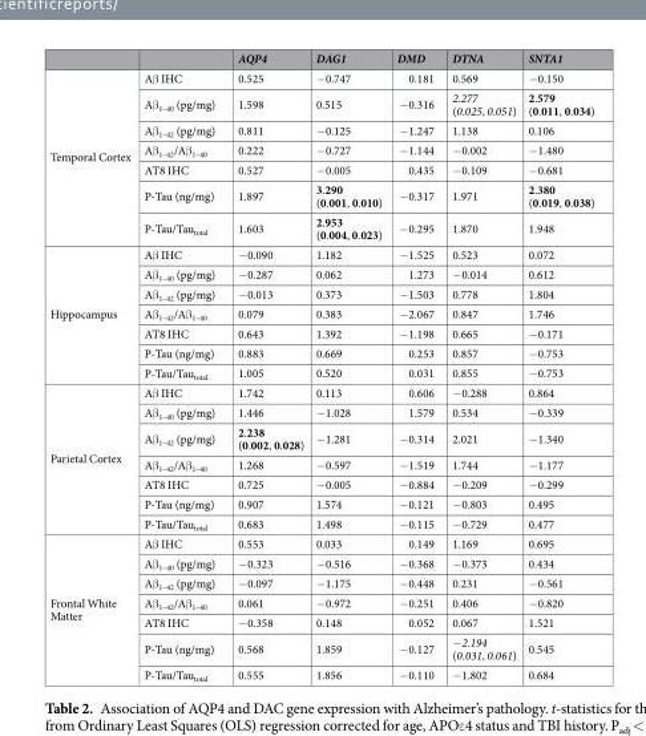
<table><thead><tr><td></td><td></td><td>AQP4</td><td>DAG1</td><td>DMD</td><td>DTNA</td><td>SNTA1</td></tr></thead><tbody><tr><td rowspan="7">Temporal Cortex</td><td>Aβ IHC</td><td>0.525</td><td>−0.747</td><td>0.181</td><td>0.569</td><td>−0.150</td></tr><tr><td>Aβ<sub>1–40</sub> (pg/mg)</td><td>1.598</td><td>0.515</td><td>−0.316</td><td>2.277 (0.025, 0.051)</td><td>2.579 (0.011, 0.034)</td></tr><tr><td>Aβ<sub>1–42</sub> (pg/mg)</td><td>0.811</td><td>−0.125</td><td>−1.247</td><td>1.138</td><td>0.106</td></tr><tr><td>Aβ<sub>1–42</sub>/Aβ<sub>1–40</sub></td><td>0.222</td><td>−0.727</td><td>−1.144</td><td>−0.002</td><td>−1.480</td></tr><tr><td>AT8 IHC</td><td>0.527</td><td>−0.005</td><td>0.435</td><td>−0.109</td><td>−0.681</td></tr><tr><td>P-Tau (ng/mg)</td><td>1.897</td><td>3.290 (0.001, 0.010)</td><td>−0.317</td><td>1.971</td><td>2.380 (0.019, 0.038)</td></tr><tr><td>P-Tau/Tau<sub>total</sub></td><td>1.603</td><td>2.953 (0.004, 0.023)</td><td>−0.295</td><td>1.870</td><td>1.948</td></tr><tr><td rowspan="7">Hippocampus</td><td>Aβ IHC</td><td>−0.090</td><td>1.182</td><td>−1.525</td><td>0.523</td><td>0.072</td></tr><tr><td>Aβ<sub>1–40</sub> (pg/mg)</td><td>−0.287</td><td>0.062</td><td>1.273</td><td>−0.014</td><td>0.612</td></tr><tr><td>Aβ<sub>1–42</sub> (pg/mg)</td><td>−0.013</td><td>0.373</td><td>−1.503</td><td>0.778</td><td>1.804</td></tr><tr><td>Aβ<sub>1–42</sub>/Aβ<sub>1–40</sub></td><td>0.079</td><td>0.383</td><td>−2.067</td><td>0.847</td><td>1.746</td></tr><tr><td>AT8 IHC</td><td>0.643</td><td>1.392</td><td>−1.198</td><td>0.665</td><td>−0.171</td></tr><tr><td>P-Tau (ng/mg)</td><td>0.883</td><td>0.669</td><td>0.253</td><td>0.857</td><td>−0.753</td></tr><tr><td>P-Tau/Tau<sub>total</sub></td><td>1.005</td><td>0.520</td><td>0.031</td><td>0.855</td><td>−0.753</td></tr><tr><td rowspan="7">Parietal Cortex</td><td>Aβ IHC</td><td>1.742</td><td>0.113</td><td>0.606</td><td>−0.288</td><td>0.864</td></tr><tr><td>Aβ<sub>1–40</sub> (pg/mg)</td><td>1.446</td><td>−1.028</td><td>1.579</td><td>0.534</td><td>−0.339</td></tr><tr><td>Aβ<sub>1–42</sub> (pg/mg)</td><td>2.238 (0.002, 0.028)</td><td>−1.281</td><td>−0.314</td><td>2.021</td><td>−1.340</td></tr><tr><td>Aβ<sub>1–42</sub>/Aβ<sub>1–40</sub></td><td>1.268</td><td>−0.597</td><td>−1.519</td><td>1.744</td><td>−1.177</td></tr><tr><td>AT8 IHC</td><td>0.725</td><td>−0.005</td><td>−0.884</td><td>−0.209</td><td>−0.299</td></tr><tr><td>P-Tau (ng/mg)</td><td>0.907</td><td>1.574</td><td>−0.121</td><td>−0.803</td><td>0.495</td></tr><tr><td>P-Tau/Tau<sub>total</sub></td><td>0.683</td><td>1.498</td><td>−0.115</td><td>−0.729</td><td>0.477</td></tr><tr><td rowspan="7">Frontal White Matter</td><td>Aβ IHC</td><td>0.553</td><td>0.033</td><td>0.149</td><td>1.169</td><td>0.695</td></tr><tr><td>Aβ<sub>1–40</sub> (pg/mg)</td><td>−0.323</td><td>−0.516</td><td>−0.368</td><td>−0.373</td><td>0.434</td></tr><tr><td>Aβ<sub>1–42</sub> (pg/mg)</td><td>−0.097</td><td>−1.175</td><td>−0.448</td><td>0.231</td><td>−0.561</td></tr><tr><td>Aβ<sub>1–42</sub>/Aβ<sub>1–40</sub></td><td>0.061</td><td>−0.972</td><td>−0.251</td><td>0.406</td><td>−0.820</td></tr><tr><td>AT8 IHC</td><td>−0.358</td><td>0.148</td><td>0.052</td><td>0.067</td><td>1.521</td></tr><tr><td>P-Tau (ng/mg)</td><td>0.568</td><td>1.859</td><td>−0.127</td><td>−2.194 (0.031, 0.061)</td><td>0.545</td></tr><tr><td>P-Tau/Tau<sub>total</sub></td><td>0.555</td><td>1.856</td><td>−0.110</td><td>−1.802</td><td>0.684</td></tr></tbody></table>